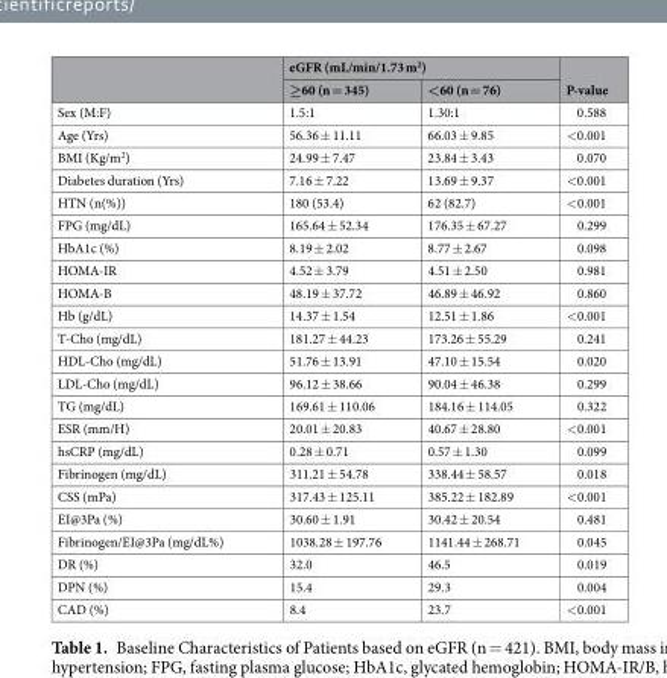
<table><thead><tr><td rowspan="2"></td><td colspan="2">eGFR (mL/min/1.73 m<sup>2</sup>)</td><td rowspan="2">P-value</td></tr><tr><td>≥60 (n = 345)</td><td>&lt;60 (n = 76)</td></tr></thead><tbody><tr><td>Sex (M:F)</td><td>1.5:1</td><td>1.30:1</td><td>0.588</td></tr><tr><td>Age (Yrs)</td><td>56.36 ± 11.11</td><td>66.03 ± 9.85</td><td>&lt;0.001</td></tr><tr><td>BMI (Kg/m<sup>2</sup>)</td><td>24.99 ± 7.47</td><td>23.84 ± 3.43</td><td>0.070</td></tr><tr><td>Diabetes duration (Yrs)</td><td>7.16 ± 7.22</td><td>13.69 ± 9.37</td><td>&lt;0.001</td></tr><tr><td>HTN (n(%))</td><td>180 (53.4)</td><td>62 (82.7)</td><td>&lt;0.001</td></tr><tr><td>FPG (mg/dL)</td><td>165.64 ± 52.34</td><td>176.35 ± 67.27</td><td>0.299</td></tr><tr><td>HbA1c (%)</td><td>8.19 ± 2.02</td><td>8.77 ± 2.67</td><td>0.098</td></tr><tr><td>HOMA-IR</td><td>4.52 ± 3.79</td><td>4.51 ± 2.50</td><td>0.981</td></tr><tr><td>HOMA-B</td><td>48.19 ± 37.72</td><td>46.89 ± 46.92</td><td>0.860</td></tr><tr><td>Hb (g/dL)</td><td>14.37 ± 1.54</td><td>12.51 ± 1.86</td><td>&lt;0.001</td></tr><tr><td>T-Cho (mg/dL)</td><td>181.27 ± 44.23</td><td>173.26 ± 55.29</td><td>0.241</td></tr><tr><td>HDL-Cho (mg/dL)</td><td>51.76 ± 13.91</td><td>47.10 ± 15.54</td><td>0.020</td></tr><tr><td>LDL-Cho (mg/dL)</td><td>96.12 ± 38.66</td><td>90.04 ± 46.38</td><td>0.299</td></tr><tr><td>TG (mg/dL)</td><td>169.61 ± 110.06</td><td>184.16 ± 114.05</td><td>0.322</td></tr><tr><td>ESR (mm/H)</td><td>20.01 ± 20.83</td><td>40.67 ± 28.80</td><td>&lt;0.001</td></tr><tr><td>hsCRP (mg/dL)</td><td>0.28 ± 0.71</td><td>0.57 ± 1.30</td><td>0.099</td></tr><tr><td>Fibrinogen (mg/dL)</td><td>311.21 ± 54.78</td><td>338.44 ± 58.57</td><td>0.018</td></tr><tr><td>CSS (mPa)</td><td>317.43 ± 125.11</td><td>385.22 ± 182.89</td><td>&lt;0.001</td></tr><tr><td>EI@3Pa (%)</td><td>30.60 ± 1.91</td><td>30.42 ± 20.54</td><td>0.481</td></tr><tr><td>Fibrinogen/EI@3Pa (mg/dL%)</td><td>1038.28 ± 197.76</td><td>1141.44 ± 268.71</td><td>0.045</td></tr><tr><td>DR (%)</td><td>32.0</td><td>46.5</td><td>0.019</td></tr><tr><td>DPN (%)</td><td>15.4</td><td>29.3</td><td>0.004</td></tr><tr><td>CAD (%)</td><td>8.4</td><td>23.7</td><td>&lt;0.001</td></tr></tbody></table>